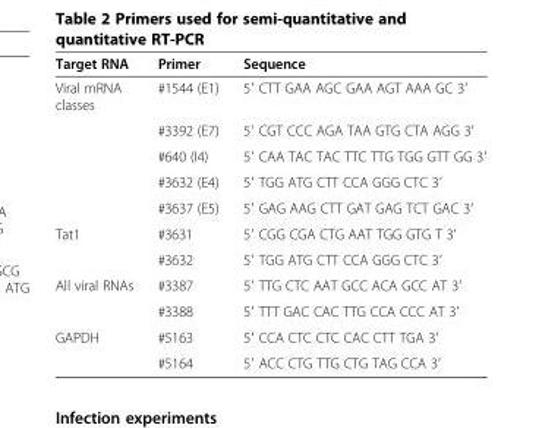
<table><thead><tr><td>Target RNA</td><td>Primer</td><td>Sequence</td></tr></thead><tbody><tr><td rowspan="5">Viral mRNA classes</td><td>#1544 (E1)</td><td>5′ CTT GAA AGC GAA AGT AAA GC 3′</td></tr><tr><td>#3392 (E7)</td><td>5′ CGT CCC AGA TAA GTG CTA AGG 3′</td></tr><tr><td>#640 (I4)</td><td>5′ CAA TAC TAC TTC TTG TGG GTT GG 3′</td></tr><tr><td>#3632 (E4)</td><td>5′ TGG ATG CTT CCA GGG CTC 3′</td></tr><tr><td>#3637 (E5)</td><td>5′ GAG AAG CTT GAT GAG TCT GAC 3′</td></tr><tr><td rowspan="2">Tat1</td><td>#3631</td><td>5′ CGG CGA CTG AAT TGG GTG T 3′</td></tr><tr><td>#3632</td><td>5′ TGG ATG CTT CCA GGG CTC 3′</td></tr><tr><td rowspan="2">All viral RNAs</td><td>#3387</td><td>5′ TTG CTC AAT GCC ACA GCC AT 3′</td></tr><tr><td>#3388</td><td>5′ TTT GAC CAC TTG CCA CCC AT 3′</td></tr><tr><td rowspan="2">GAPDH</td><td>#5163</td><td>5′ CCA CTC CTC CAC CTT TGA 3′</td></tr><tr><td>#5164</td><td>5′ ACC CTG TTG CTG TAG CCA 3′</td></tr></tbody></table>